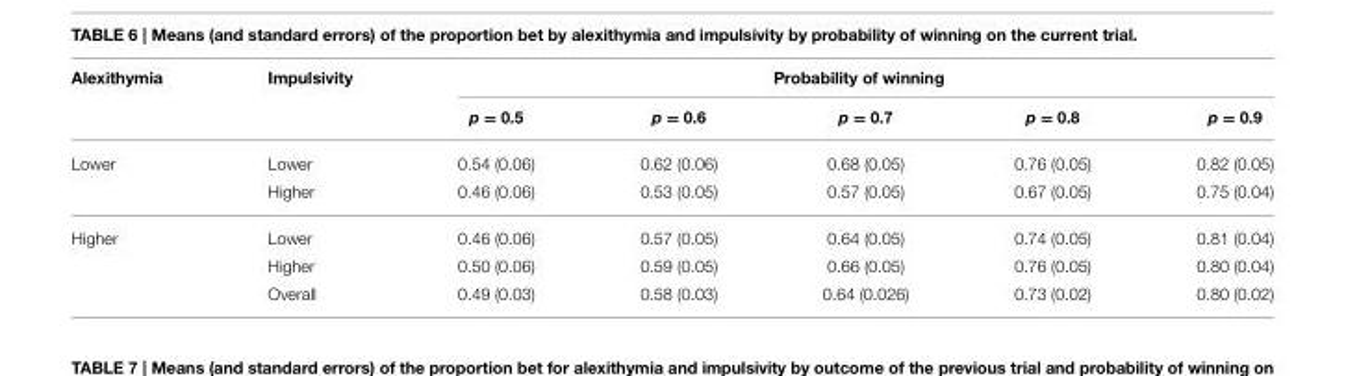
<table><thead><tr><td rowspan="2">Alexithymia</td><td rowspan="2">Impulsivity</td><td colspan="5">Probability of winning</td></tr><tr><td>p = 0.5</td><td>p = 0.6</td><td>p = 0.7</td><td>p = 0.8</td><td>p = 0.9</td></tr></thead><tbody><tr><td rowspan="2">Lower</td><td>Lower</td><td>0.54 (0.06)</td><td>0.62 (0.06)</td><td>0.68 (0.05)</td><td>0.76 (0.05)</td><td>0.82 (0.05)</td></tr><tr><td>Higher</td><td>0.46 (0.06)</td><td>0.53 (0.05)</td><td>0.57 (0.05)</td><td>0.67 (0.05)</td><td>0.75 (0.04)</td></tr><tr><td rowspan="3">Higher</td><td>Lower</td><td>0.46 (0.06)</td><td>0.57 (0.05)</td><td>0.64 (0.05)</td><td>0.74 (0.05)</td><td>0.81 (0.04)</td></tr><tr><td>Higher</td><td>0.50 (0.06)</td><td>0.59 (0.05)</td><td>0.66 (0.05)</td><td>0.76 (0.05)</td><td>0.80 (0.04)</td></tr><tr><td>Overall</td><td>0.49 (0.03)</td><td>0.58 (0.03)</td><td>0.64 (0.026)</td><td>0.73 (0.02)</td><td>0.80 (0.02)</td></tr></tbody></table>